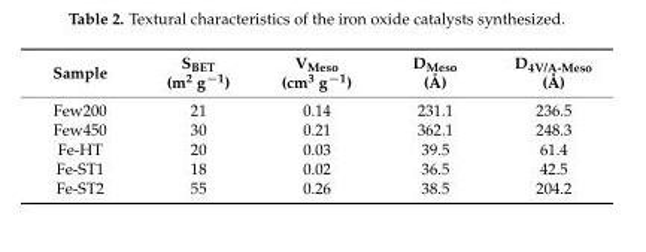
<table><thead><tr><td>Sample</td><td>S<sub>BET</sub> (m<sup>2</sup> g<sup>−1</sup>)</td><td>V<sub>Meso</sub> (cm<sup>3</sup> g<sup>−1</sup>)</td><td>D<sub>Meso</sub> (Å)</td><td>D<sub>4V/A-Meso</sub> (Å)</td></tr></thead><tbody><tr><td>Few200</td><td>21</td><td>0.14</td><td>231.1</td><td>236.5</td></tr><tr><td>Few450</td><td>30</td><td>0.21</td><td>362.1</td><td>248.3</td></tr><tr><td>Fe-HT</td><td>20</td><td>0.03</td><td>39.5</td><td>61.4</td></tr><tr><td>Fe-ST1</td><td>18</td><td>0.02</td><td>36.5</td><td>42.5</td></tr><tr><td>Fe-ST2</td><td>55</td><td>0.26</td><td>38.5</td><td>204.2</td></tr></tbody></table>